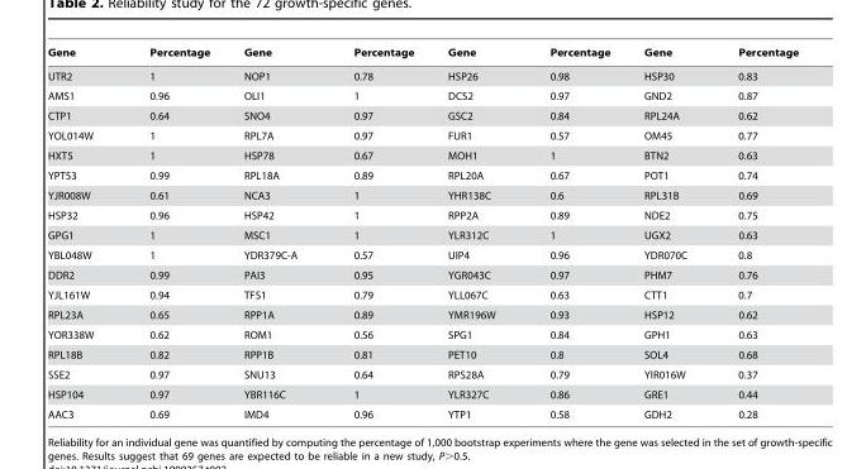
<table><thead><tr><td>Gene</td><td>Percentage</td><td>Gene</td><td>Percentage</td><td>Gene</td><td>Percentage</td><td>Gene</td><td>Percentage</td></tr></thead><tbody><tr><td>UTR2</td><td>1</td><td>NOP1</td><td>0.78</td><td>HSP26</td><td>0.98</td><td>HSP30</td><td>0.83</td></tr><tr><td>AMS1</td><td>0.96</td><td>OLI1</td><td>1</td><td>DCS2</td><td>0.97</td><td>GND2</td><td>0.87</td></tr><tr><td>CTP1</td><td>0.64</td><td>SNO4</td><td>0.97</td><td>GSC2</td><td>0.84</td><td>RPL24A</td><td>0.62</td></tr><tr><td>YOL014W</td><td>1</td><td>RPL7A</td><td>0.97</td><td>FUR1</td><td>0.57</td><td>OM45</td><td>0.77</td></tr><tr><td>HXT5</td><td>1</td><td>HSP78</td><td>0.67</td><td>MOH1</td><td>1</td><td>BTN2</td><td>0.63</td></tr><tr><td>YPT53</td><td>0.99</td><td>RPL18A</td><td>0.89</td><td>RPL20A</td><td>0.67</td><td>POT1</td><td>0.74</td></tr><tr><td>YJR008W</td><td>0.61</td><td>NCA3</td><td>1</td><td>YHR138C</td><td>0.6</td><td>RPL31B</td><td>0.69</td></tr><tr><td>HSP32</td><td>0.96</td><td>HSP42</td><td>1</td><td>RPP2A</td><td>0.89</td><td>NDE2</td><td>0.75</td></tr><tr><td>GPG1</td><td>1</td><td>MSC1</td><td>1</td><td>YLR312C</td><td>1</td><td>UGX2</td><td>0.63</td></tr><tr><td>YBL048W</td><td>1</td><td>YDR379C-A</td><td>0.57</td><td>UIP4</td><td>0.96</td><td>YDR070C</td><td>0.8</td></tr><tr><td>DDR2</td><td>0.99</td><td>PAI3</td><td>0.95</td><td>YGR043C</td><td>0.97</td><td>PHM7</td><td>0.76</td></tr><tr><td>YJL161W</td><td>0.94</td><td>TFS1</td><td>0.79</td><td>YLL067C</td><td>0.63</td><td>CTT1</td><td>0.7</td></tr><tr><td>RPL23A</td><td>0.65</td><td>RPP1A</td><td>0.89</td><td>YMR196W</td><td>0.93</td><td>HSP12</td><td>0.62</td></tr><tr><td>YOR338W</td><td>0.62</td><td>ROM1</td><td>0.56</td><td>SPG1</td><td>0.84</td><td>GPH1</td><td>0.63</td></tr><tr><td>RPL18B</td><td>0.82</td><td>RPP1B</td><td>0.81</td><td>PET10</td><td>0.8</td><td>SOL4</td><td>0.68</td></tr><tr><td>SSE2</td><td>0.97</td><td>SNU13</td><td>0.64</td><td>RPS28A</td><td>0.79</td><td>YIR016W</td><td>0.37</td></tr><tr><td>HSP104</td><td>0.97</td><td>YBR116C</td><td>1</td><td>YLR327C</td><td>0.86</td><td>GRE1</td><td>0.44</td></tr><tr><td>AAC3</td><td>0.69</td><td>IMD4</td><td>0.96</td><td>YTP1</td><td>0.58</td><td>GDH2</td><td>0.28</td></tr></tbody></table>